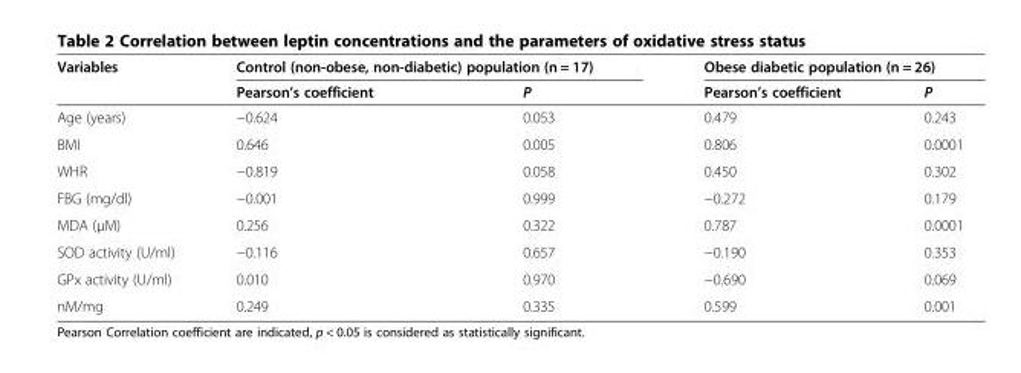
<table><thead><tr><td rowspan="2">Variables</td><td colspan="2">Control (non-obese, non-diabetic) population (n = 17)</td><td colspan="2">Obese diabetic population (n = 26)</td></tr><tr><td>Pearson’s coefficient</td><td>P</td><td>Pearson’s coefficient</td><td>P</td></tr></thead><tbody><tr><td>Age (years)</td><td>−0.624</td><td>0.053</td><td>0.479</td><td>0.243</td></tr><tr><td>BMI</td><td>0.646</td><td>0.005</td><td>0.806</td><td>0.0001</td></tr><tr><td>WHR</td><td>−0.819</td><td>0.058</td><td>0.450</td><td>0.302</td></tr><tr><td>FBG (mg/dl)</td><td>−0.001</td><td>0.999</td><td>−0.272</td><td>0.179</td></tr><tr><td>MDA (μM)</td><td>0.256</td><td>0.322</td><td>0.787</td><td>0.0001</td></tr><tr><td>SOD activity (U/ml)</td><td>−0.116</td><td>0.657</td><td>−0.190</td><td>0.353</td></tr><tr><td>GPx activity (U/ml)</td><td>0.010</td><td>0.970</td><td>−0.690</td><td>0.069</td></tr><tr><td>nM/mg</td><td>0.249</td><td>0.335</td><td>0.599</td><td>0.001</td></tr></tbody></table>